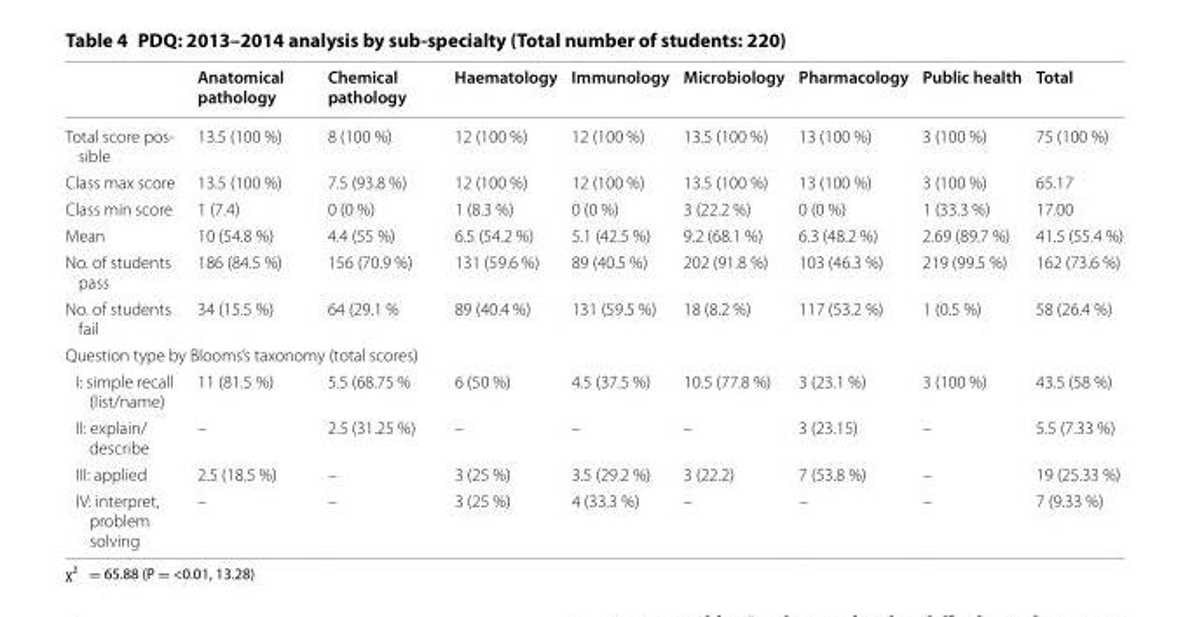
<table><thead><tr><td></td><td>Anatomical pathology</td><td>Chemical pathology</td><td>Haematology</td><td>Immunology</td><td>Microbiology</td><td>Pharmacology</td><td>Public health</td><td>Total</td></tr></thead><tbody><tr><td>Total score pos- sible</td><td>13.5 (100 %)</td><td>8 (100 %)</td><td>12 (100 %)</td><td>12 (100 %)</td><td>13.5 (100 %)</td><td>13 (100 %)</td><td>3 (100 %)</td><td>75 (100 %)</td></tr><tr><td>Class max score</td><td>13.5 (100 %)</td><td>7.5 (93.8 %)</td><td>12 (100 %)</td><td>12 (100 %)</td><td>13.5 (100 %)</td><td>13 (100 %)</td><td>3 (100 %)</td><td>65.17</td></tr><tr><td>Class min score</td><td>1 (7.4)</td><td>0 (0 %)</td><td>1 (8.3 %)</td><td>0 (0 %)</td><td>3 (22.2 %)</td><td>0 (0 %)</td><td>1 (33.3 %)</td><td>17.00</td></tr><tr><td>Mean</td><td>10 (54.8 %)</td><td>4.4 (55 %)</td><td>6.5 (54.2 %)</td><td>5.1 (42.5 %)</td><td>9.2 (68.1 %)</td><td>6.3 (48.2 %)</td><td>2.69 (89.7 %)</td><td>41.5 (55.4 %)</td></tr><tr><td>No. of students pass</td><td>186 (84.5 %)</td><td>156 (70.9 %)</td><td>131 (59.6 %)</td><td>89 (40.5 %)</td><td>202 (91.8 %)</td><td>103 (46.3 %)</td><td>219 (99.5 %)</td><td>162 (73.6 %)</td></tr><tr><td>No. of students fail</td><td>34 (15.5 %)</td><td>64 (29.1 %</td><td>89 (40.4 %)</td><td>131 (59.5 %)</td><td>18 (8.2 %)</td><td>117 (53.2 %)</td><td>1 (0.5 %)</td><td>58 (26.4 %)</td></tr><tr><td colspan="9">Question type by Blooms’s taxonomy (total scores)</td></tr><tr><td>I: simple recall (list/name)</td><td>11 (81.5 %)</td><td>5.5 (68.75 %</td><td>6 (50 %)</td><td>4.5 (37.5 %)</td><td>10.5 (77.8 %)</td><td>3 (23.1 %)</td><td>3 (100 %)</td><td>43.5 (58 %)</td></tr><tr><td>II: explain/ describe</td><td>–</td><td>2.5 (31.25 %)</td><td>–</td><td>–</td><td>–</td><td>3 (23.15)</td><td>–</td><td>5.5 (7.33 %)</td></tr><tr><td>III: applied</td><td>2.5 (18.5 %)</td><td>–</td><td>3 (25 %)</td><td>3.5 (29.2 %)</td><td>3 (22.2)</td><td>7 (53.8 %)</td><td>–</td><td>19 (25.33 %)</td></tr><tr><td>IV: interpret, problem solving</td><td>–</td><td>–</td><td>3 (25 %)</td><td>4 (33.3 %)</td><td>–</td><td>–</td><td>–</td><td>7 (9.33 %)</td></tr></tbody></table>